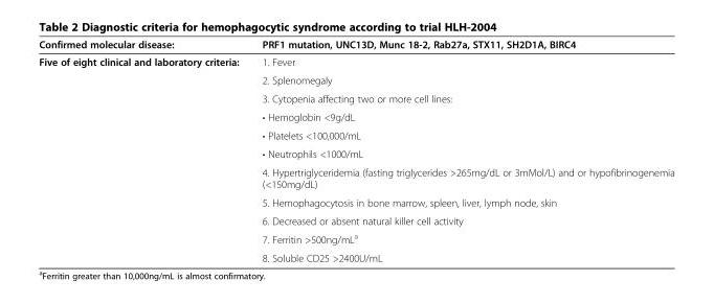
<table><thead><tr><td>Confirmed molecular disease:</td><td>PRF1 mutation, UNC13D, Munc 18-2, Rab27a, STX11, SH2D1A, BIRC4</td></tr></thead><tbody><tr><td rowspan="11">Five of eight clinical and laboratory criteria:</td><td>1. Fever</td></tr><tr><td>2. Splenomegaly</td></tr><tr><td>3. Cytopenia affecting two or more cell lines:</td></tr><tr><td>• Hemoglobin &lt;9g/dL</td></tr><tr><td>• Platelets &lt;100,000/mL</td></tr><tr><td>• Neutrophils &lt;1000/mL</td></tr><tr><td>4. Hypertriglyceridemia (fasting triglycerides &gt;265mg/dL or 3mMol/L) and or hypofibrinogenemia (&lt;150mg/dL)</td></tr><tr><td>5. Hemophagocytosis in bone marrow, spleen, liver, lymph node, skin</td></tr><tr><td>6. Decreased or absent natural killer cell activity</td></tr><tr><td>7. Ferritin &gt;500ng/mL<sup>a</sup></td></tr><tr><td>8. Soluble CD25 &gt;2400U/mL</td></tr></tbody></table>